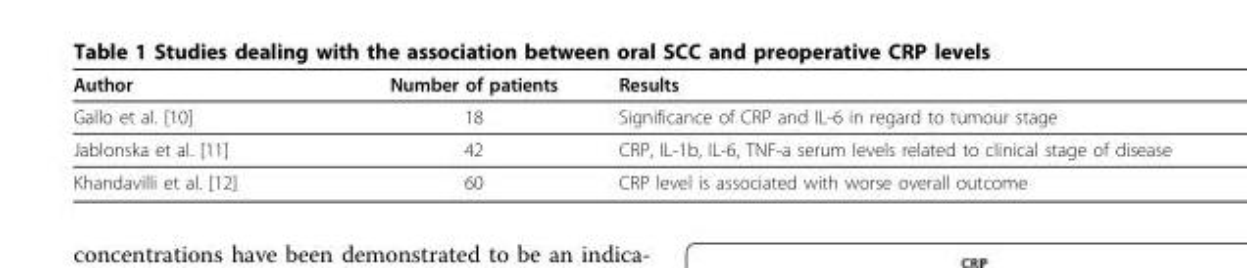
<table><thead><tr><td>Author</td><td>Number of patients</td><td>Results</td></tr></thead><tbody><tr><td>Gallo et al. [10]</td><td>18</td><td>Significance of CRP and IL-6 in regard to tumour stage</td></tr><tr><td>Jablonska et al. [11]</td><td>42</td><td>CRP, IL-1β, IL-6, TNF-α serum levels related to clinical stage of disease</td></tr><tr><td>Khandavilli et al. [12]</td><td>60</td><td>CRP level is associated with worse overall outcome</td></tr></tbody></table>